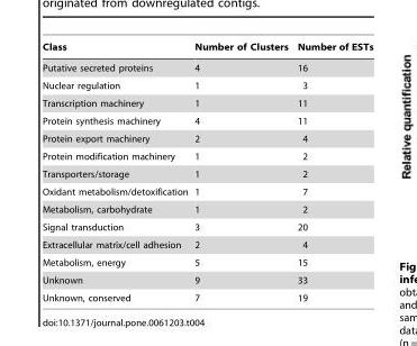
<table><thead><tr><td>Class</td><td>Number of Clusters</td><td>Number of ESTs</td></tr></thead><tbody><tr><td>Putative secreted proteins</td><td>4</td><td>16</td></tr><tr><td>Nuclear regulation</td><td>1</td><td>3</td></tr><tr><td>Transcription machinery</td><td>1</td><td>11</td></tr><tr><td>Protein synthesis machinery</td><td>4</td><td>11</td></tr><tr><td>Protein export machinery</td><td>2</td><td>4</td></tr><tr><td>Protein modification machinery</td><td>1</td><td>2</td></tr><tr><td>Transporters/storage</td><td>1</td><td>2</td></tr><tr><td>Oxidant metabolism/detoxification</td><td>1</td><td>7</td></tr><tr><td>Metabolism, carbohydrate</td><td>1</td><td>2</td></tr><tr><td>Signal transduction</td><td>3</td><td>20</td></tr><tr><td>Extracellular matrix/cell adhesion</td><td>2</td><td>4</td></tr><tr><td>Metabolism, energy</td><td>5</td><td>15</td></tr><tr><td>Unknown</td><td>9</td><td>33</td></tr><tr><td>Unknown, conserved</td><td>7</td><td>19</td></tr></tbody></table>